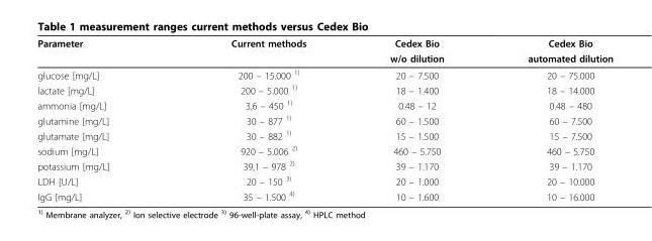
<table><thead><tr><td rowspan="2">Parameter</td><td rowspan="2">Current methods</td><td rowspan="2">Cedex Bio w/o dilution</td><td rowspan="2">Cedex Bio automated dilution</td></tr><tr></tr></thead><tbody><tr><td>glucose [mg/L]</td><td>200 – 15.000 <sup>1)</sup></td><td>20 – 7.500</td><td>20 – 75.000</td></tr><tr><td>lactate [mg/L]</td><td>200 – 5.000 <sup>1)</sup></td><td>18 – 1.400</td><td>18 – 14.000</td></tr><tr><td>ammonia [mg/L]</td><td>3,6 – 450 <sup>1)</sup></td><td>0.48 – 12</td><td>0.48 – 480</td></tr><tr><td>glutamine [mg/L]</td><td>30 – 877 <sup>1)</sup></td><td>60 – 1.500</td><td>60 – 7.500</td></tr><tr><td>glutamate [mg/L]</td><td>30 – 882 <sup>1)</sup></td><td>15 – 1.500</td><td>15 – 7.500</td></tr><tr><td>sodium [mg/L]</td><td>920 – 5.006 <sup>2)</sup></td><td>460 – 5.750</td><td>460 – 5.750</td></tr><tr><td>potassium [mg/L]</td><td>39,1 – 978 <sup>2)</sup></td><td>39 – 1.170</td><td>39 – 1.170</td></tr><tr><td>LDH [U/L]</td><td>20 – 150 <sup>3)</sup></td><td>20 – 1.000</td><td>20 – 10.000</td></tr><tr><td>IgG [mg/L]</td><td>35 – 1.500 <sup>4)</sup></td><td>10 – 1.600</td><td>10 – 16.000</td></tr></tbody></table>